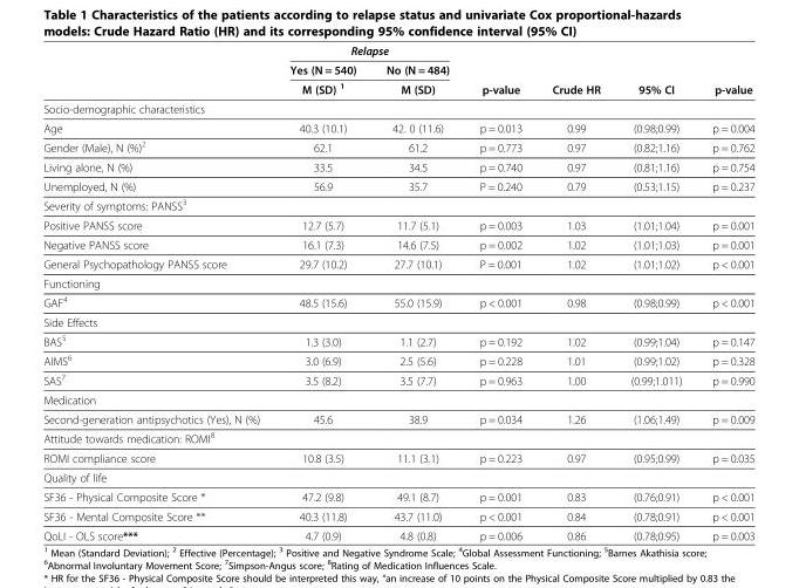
<table><thead><tr><td rowspan="3"></td><td colspan="2">Relapse</td><td rowspan="3">p-value</td><td rowspan="3">Crude HR</td><td rowspan="3">95% CI</td><td rowspan="3">p-value</td></tr><tr><td rowspan="2">Yes (N = 540) M (SD) <sup>1</sup></td><td rowspan="2">No (N = 484) M (SD)</td></tr><tr></tr></thead><tbody><tr><td colspan="7">Socio-demographic characteristics</td></tr><tr><td>Age</td><td>40.3 (10.1)</td><td>42. 0 (11.6)</td><td>p = 0.013</td><td>0.99</td><td>(0.98;0.99)</td><td>p = 0.004</td></tr><tr><td>Gender (Male), N (%)<sup>2</sup></td><td>62.1</td><td>61.2</td><td>p = 0.773</td><td>0.97</td><td>(0.82;1.16)</td><td>p = 0.762</td></tr><tr><td>Living alone, N (%)</td><td>33.5</td><td>34.5</td><td>p = 0.740</td><td>0.97</td><td>(0.81;1.16)</td><td>p = 0.754</td></tr><tr><td>Unemployed, N (%)</td><td>56.9</td><td>35.7</td><td>P = 0.240</td><td>0.79</td><td>(0.53;1.15)</td><td>p = 0.237</td></tr><tr><td colspan="7">Severity of symptoms: PANSS<sup>3</sup></td></tr><tr><td>Positive PANSS score</td><td>12.7 (5.7)</td><td>11.7 (5.1)</td><td>p = 0.003</td><td>1.03</td><td>(1.01;1.04)</td><td>p = 0.001</td></tr><tr><td>Negative PANSS score</td><td>16.1 (7.3)</td><td>14.6 (7.5)</td><td>p = 0.002</td><td>1.02</td><td>(1.01;1.03)</td><td>p = 0.001</td></tr><tr><td>General Psychopathology PANSS score</td><td>29.7 (10.2)</td><td>27.7 (10.1)</td><td>P = 0.001</td><td>1.02</td><td>(1.01;1.02)</td><td>p &lt; 0.001</td></tr><tr><td colspan="7">Functioning</td></tr><tr><td>GAF<sup>4</sup></td><td>48.5 (15.6)</td><td>55.0 (15.9)</td><td>p &lt; 0.001</td><td>0.98</td><td>(0.98;0.99)</td><td>p &lt; 0.001</td></tr><tr><td colspan="7">Side Effects</td></tr><tr><td>BAS<sup>5</sup></td><td>1.3 (3.0)</td><td>1.1 (2.7)</td><td>p = 0.192</td><td>1.02</td><td>(0.99;1.04)</td><td>p = 0.147</td></tr><tr><td>AIMS<sup>6</sup></td><td>3.0 (6.9)</td><td>2.5 (5.6)</td><td>p = 0.228</td><td>1.01</td><td>(0.99;1.02)</td><td>p = 0.328</td></tr><tr><td>SAS<sup>7</sup></td><td>3.5 (8.2)</td><td>3.5 (7.7)</td><td>p = 0.963</td><td>1.00</td><td>(0.99;1.011)</td><td>p = 0.990</td></tr><tr><td colspan="7">Medication</td></tr><tr><td>Second-generation antipsychotics (Yes), N (%)</td><td>45.6</td><td>38.9</td><td>p = 0.034</td><td>1.26</td><td>(1.06;1.49)</td><td>p = 0.009</td></tr><tr><td colspan="7">Attitude towards medication: ROMI<sup>8</sup></td></tr><tr><td>ROMI compliance score</td><td>10.8 (3.5)</td><td>11.1 (3.1)</td><td>p = 0.223</td><td>0.97</td><td>(0.95;0.99)</td><td>p = 0.035</td></tr><tr><td colspan="7">Quality of life</td></tr><tr><td>SF36 - Physical Composite Score *</td><td>47.2 (9.8)</td><td>49.1 (8.7)</td><td>p = 0.001</td><td>0.83</td><td>(0.76;0.91)</td><td>p &lt; 0.001</td></tr><tr><td>SF36 - Mental Composite Score **</td><td>40.3 (11.8)</td><td>43.7 (11.0)</td><td>p &lt; 0.001</td><td>0.84</td><td>(0.78;0.91)</td><td>p &lt; 0.001</td></tr><tr><td>QoLI - OLS score***</td><td>4.7 (0.9)</td><td>4.8 (0.8)</td><td>p = 0.006</td><td>0.86</td><td>(0.78;0.95)</td><td>p = 0.003</td></tr></tbody></table>